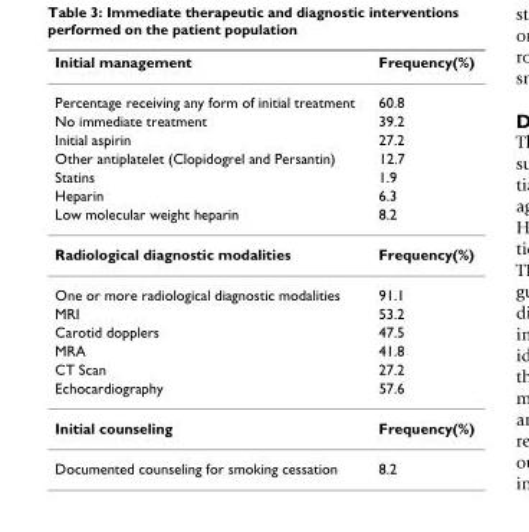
<table><thead><tr><td>Initial management</td><td>Frequency(%)</td></tr></thead><tbody><tr><td>Percentage receiving any form of initial treatment</td><td>60.8</td></tr><tr><td>No immediate treatment</td><td>39.2</td></tr><tr><td>Initial aspirin</td><td>27.2</td></tr><tr><td>Other antiplatelet (Clopidogrel and Persantin)</td><td>12.7</td></tr><tr><td>Statins</td><td>1.9</td></tr><tr><td>Heparin</td><td>6.3</td></tr><tr><td>Low molecular weight heparin</td><td>8.2</td></tr><tr><td>Radiological diagnostic modalities</td><td>Frequency(%)</td></tr><tr><td>One or more radiological diagnostic modalities</td><td>91.1</td></tr><tr><td>MRI</td><td>53.2</td></tr><tr><td>Carotid dopplers</td><td>47.5</td></tr><tr><td>MRA</td><td>41.8</td></tr><tr><td>CT Scan</td><td>27.2</td></tr><tr><td>Echocardiography</td><td>57.6</td></tr><tr><td>Initial counseling</td><td>Frequency(%)</td></tr><tr><td>Documented counseling for smoking cessation</td><td>8.2</td></tr></tbody></table>